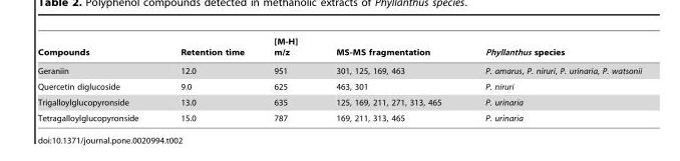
<table><thead><tr><td>Compounds</td><td>Retention time</td><td>[M-H] m/z</td><td>MS-MS fragmentation</td><td>Phyllanthus species</td></tr></thead><tbody><tr><td>Geraniin</td><td>12.0</td><td>951</td><td>301, 125, 169, 463</td><td>P. amarus, P. niruri, P. urinaria, P. watsonii</td></tr><tr><td>Quercetin diglucoside</td><td>9.0</td><td>625</td><td>463, 301</td><td>P. niruri</td></tr><tr><td>Trigalloylglucopyronside</td><td>13.0</td><td>635</td><td>125, 169, 211, 271, 313, 465</td><td>P. urinaria</td></tr><tr><td>Tetragalloylglucopyronside</td><td>15.0</td><td>787</td><td>169, 211, 313, 465</td><td>P. urinaria</td></tr></tbody></table>